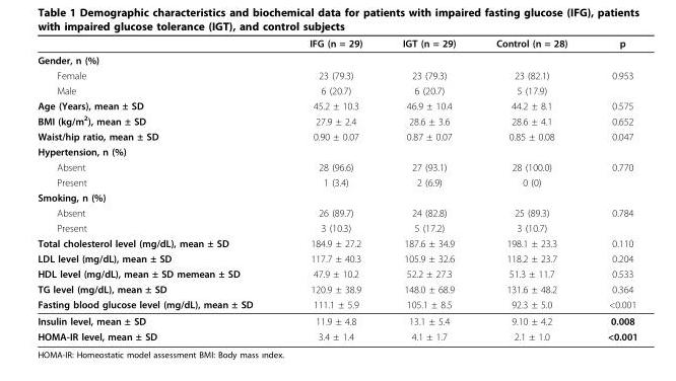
<table><thead><tr><td></td><td>IFG (n = 29)</td><td>IGT (n = 29)</td><td>Control (n = 28)</td><td>p</td></tr></thead><tbody><tr><td colspan="5">Gender, n (%)</td></tr><tr><td>Female</td><td>23 (79.3)</td><td>23 (79.3)</td><td>23 (82.1)</td><td>0.953</td></tr><tr><td>Male</td><td>6 (20.7)</td><td>6 (20.7)</td><td>5 (17.9)</td><td></td></tr><tr><td>Age (Years), mean ± SD</td><td>45.2 ± 10.3</td><td>46.9 ± 10.4</td><td>44.2 ± 8.1</td><td>0.575</td></tr><tr><td>BMI (kg/m<sup>2</sup>), mean ± SD</td><td>27.9 ± 2.4</td><td>28.6 ± 3.6</td><td>28.6 ± 4.1</td><td>0.652</td></tr><tr><td>Waist/hip ratio, mean ± SD</td><td>0.90 ± 0.07</td><td>0.87 ± 0.07</td><td>0.85 ± 0.08</td><td>0.047</td></tr><tr><td colspan="5">Hypertension, n (%)</td></tr><tr><td>Absent</td><td>28 (96.6)</td><td>27 (93.1)</td><td>28 (100.0)</td><td>0.770</td></tr><tr><td>Present</td><td>1 (3.4)</td><td>2 (6.9)</td><td>0 (0)</td><td></td></tr><tr><td colspan="5">Smoking, n (%)</td></tr><tr><td>Absent</td><td>26 (89.7)</td><td>24 (82.8)</td><td>25 (89.3)</td><td>0.784</td></tr><tr><td>Present</td><td>3 (10.3)</td><td>5 (17.2)</td><td>3 (10.7)</td><td></td></tr><tr><td>Total cholesterol level (mg/dL), mean ± SD</td><td>184.9 ± 27.2</td><td>187.6 ± 34.9</td><td>198.1 ± 23.3</td><td>0.110</td></tr><tr><td>LDL level (mg/dL), mean ± SD</td><td>117.7 ± 40.3</td><td>105.9 ± 32.6</td><td>118.2 ± 23.7</td><td>0.204</td></tr><tr><td>HDL level (mg/dL), mean ± SD memean ± SD</td><td>47.9 ± 10.2</td><td>52.2 ± 27.3</td><td>51.3 ± 11.7</td><td>0.533</td></tr><tr><td>TG level (mg/dL), mean ± SD</td><td>120.9 ± 38.9</td><td>148.0 ± 68.9</td><td>131.6 ± 48.2</td><td>0.364</td></tr><tr><td>Fasting blood glucose level (mg/dL), mean ± SD</td><td>111.1 ± 5.9</td><td>105.1 ± 8.5</td><td>92.3 ± 5.0</td><td>&lt;0.001</td></tr><tr><td>Insulin level, mean ± SD</td><td>11.9 ± 4.8</td><td>13.1 ± 5.4</td><td>9.10 ± 4.2</td><td>0.008</td></tr><tr><td>HOMA-IR level, mean ± SD</td><td>3.4 ± 1.4</td><td>4.1 ± 1.7</td><td>2.1 ± 1.0</td><td>&lt;0.001</td></tr></tbody></table>